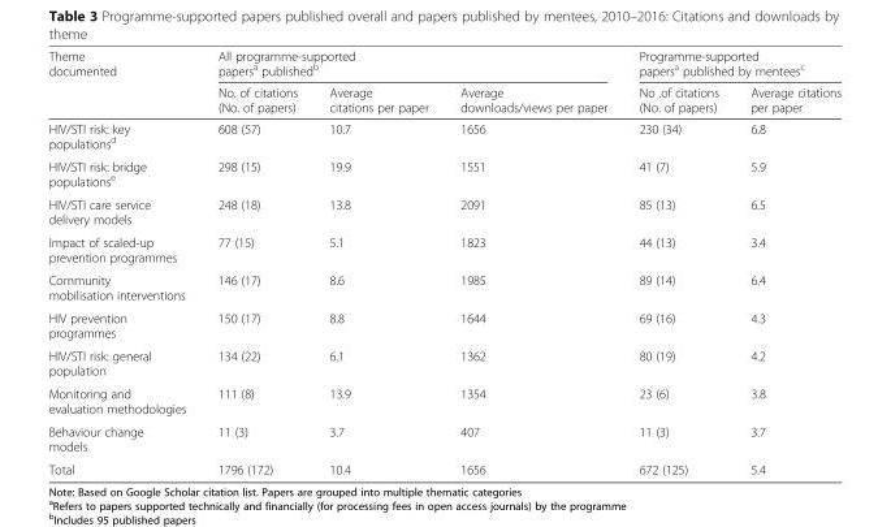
<table><thead><tr><td rowspan="2">Theme documented</td><td colspan="3">All programme-supported papers<sup>a</sup> published<sup>b</sup></td><td colspan="2">Programme-supported papers<sup>a</sup> published by mentees<sup>c</sup></td></tr><tr><td>No. of citations (No. of papers)</td><td>Average citations per paper</td><td>Average downloads/views per paper</td><td>No .of citations (No. of papers)</td><td>Average citations per paper</td></tr></thead><tbody><tr><td>HIV/STI risk: key populations<sup>d</sup></td><td>608 (57)</td><td>10.7</td><td>1656</td><td>230 (34)</td><td>6.8</td></tr><tr><td>HIV/STI risk: bridge populations<sup>e</sup></td><td>298 (15)</td><td>19.9</td><td>1551</td><td>41 (7)</td><td>5.9</td></tr><tr><td>HIV/STI care service delivery models</td><td>248 (18)</td><td>13.8</td><td>2091</td><td>85 (13)</td><td>6.5</td></tr><tr><td>Impact of scaled-up prevention programmes</td><td>77 (15)</td><td>5.1</td><td>1823</td><td>44 (13)</td><td>3.4</td></tr><tr><td>Community mobilisation interventions</td><td>146 (17)</td><td>8.6</td><td>1985</td><td>89 (14)</td><td>6.4</td></tr><tr><td>HIV prevention programmes</td><td>150 (17)</td><td>8.8</td><td>1644</td><td>69 (16)</td><td>4.3</td></tr><tr><td>HIV/STI risk: general population</td><td>134 (22)</td><td>6.1</td><td>1362</td><td>80 (19)</td><td>4.2</td></tr><tr><td>Monitoring and evaluation methodologies</td><td>111 (8)</td><td>13.9</td><td>1354</td><td>23 (6)</td><td>3.8</td></tr><tr><td>Behaviour change models</td><td>11 (3)</td><td>3.7</td><td>407</td><td>11 (3)</td><td>3.7</td></tr><tr><td>Total</td><td>1796 (172)</td><td>10.4</td><td>1656</td><td>672 (125)</td><td>5.4</td></tr></tbody></table>